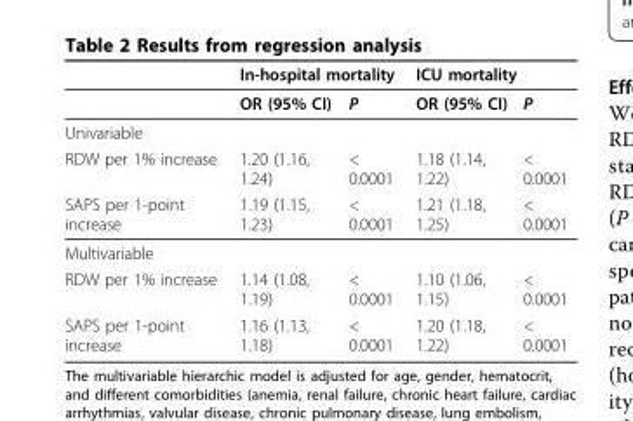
<table><thead><tr><td rowspan="2"></td><td colspan="2">In-hospital mortality</td><td colspan="2">ICU mortality</td></tr><tr><td>OR (95% CI)</td><td>P</td><td>OR (95% CI)</td><td>P</td></tr></thead><tbody><tr><td colspan="5">Univariable</td></tr><tr><td>RDW per 1% increase</td><td>1.20 (1.16, 1.24)</td><td>&lt; 0.0001</td><td>1.18 (1.14, 1.22)</td><td>&lt; 0.0001</td></tr><tr><td>SAPS per 1-point increase</td><td>1.19 (1.15, 1.23)</td><td>&lt; 0.0001</td><td>1.21 (1.18, 1.25)</td><td>&lt; 0.0001</td></tr><tr><td colspan="5">Multivariable</td></tr><tr><td>RDW per 1% increase</td><td>1.14 (1.08, 1.19)</td><td>&lt; 0.0001</td><td>1.10 (1.06, 1.15)</td><td>&lt; 0.0001</td></tr><tr><td>SAPS per 1-point increase</td><td>1.16 (1.13, 1.18)</td><td>&lt; 0.0001</td><td>1.20 (1.18, 1.22)</td><td>&lt; 0.0001</td></tr></tbody></table>